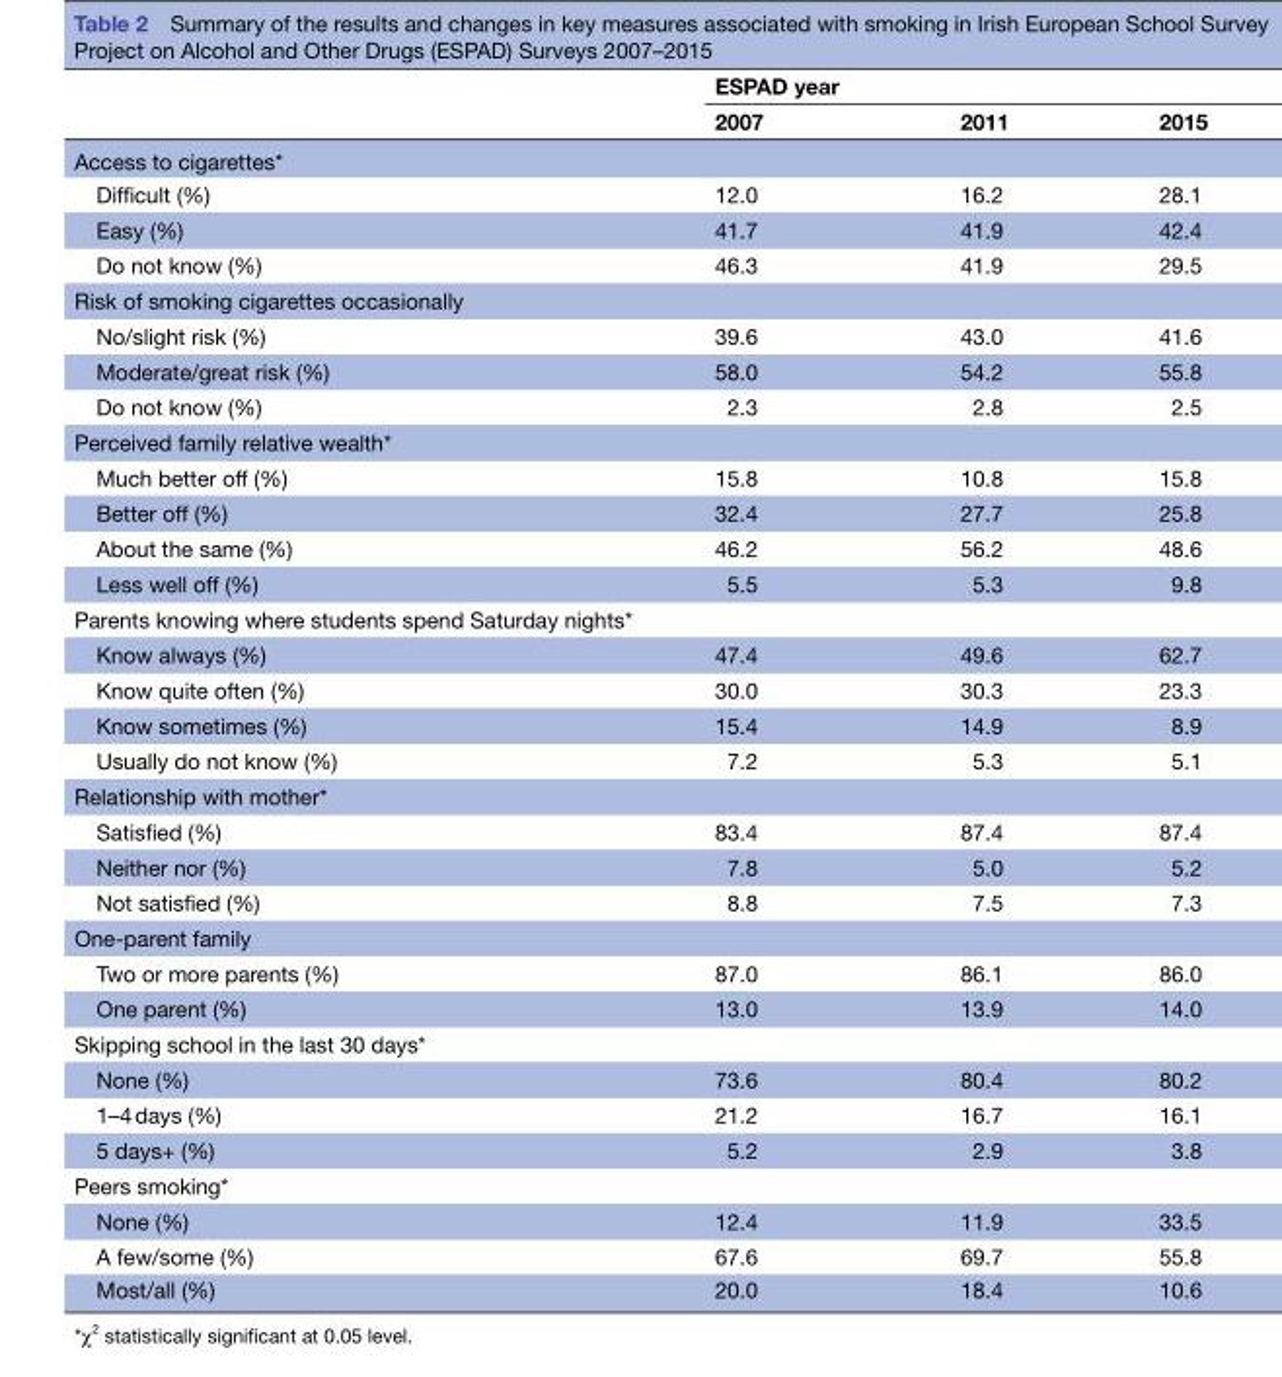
<table><thead><tr><td rowspan="2"></td><td colspan="3">ESPAD year</td></tr><tr><td>2007</td><td>2011</td><td>2015</td></tr></thead><tbody><tr><td colspan="4">Access to cigarettes*</td></tr><tr><td>Difficult (%)</td><td>12.0</td><td>16.2</td><td>28.1</td></tr><tr><td>Easy (%)</td><td>41.7</td><td>41.9</td><td>42.4</td></tr><tr><td>Do not know (%)</td><td>46.3</td><td>41.9</td><td>29.5</td></tr><tr><td colspan="4">Risk of smoking cigarettes occasionally</td></tr><tr><td>No/slight risk (%)</td><td>39.6</td><td>43.0</td><td>41.6</td></tr><tr><td>Moderate/great risk (%)</td><td>58.0</td><td>54.2</td><td>55.8</td></tr><tr><td>Do not know (%)</td><td>2.3</td><td>2.8</td><td>2.5</td></tr><tr><td colspan="4">Perceived family relative wealth*</td></tr><tr><td>Much better off (%)</td><td>15.8</td><td>10.8</td><td>15.8</td></tr><tr><td>Better off (%)</td><td>32.4</td><td>27.7</td><td>25.8</td></tr><tr><td>About the same (%)</td><td>46.2</td><td>56.2</td><td>48.6</td></tr><tr><td>Less well off (%)</td><td>5.5</td><td>5.3</td><td>9.8</td></tr><tr><td colspan="4">Parents knowing where students spend Saturday nights*</td></tr><tr><td>Know always (%)</td><td>47.4</td><td>49.6</td><td>62.7</td></tr><tr><td>Know quite often (%)</td><td>30.0</td><td>30.3</td><td>23.3</td></tr><tr><td>Know sometimes (%)</td><td>15.4</td><td>14.9</td><td>8.9</td></tr><tr><td>Usually do not know (%)</td><td>7.2</td><td>5.3</td><td>5.1</td></tr><tr><td colspan="4">Relationship with mother*</td></tr><tr><td>Satisfied (%)</td><td>83.4</td><td>87.4</td><td>87.4</td></tr><tr><td>Neither nor (%)</td><td>7.8</td><td>5.0</td><td>5.2</td></tr><tr><td>Not satisfied (%)</td><td>8.8</td><td>7.5</td><td>7.3</td></tr><tr><td colspan="4">One-parent family</td></tr><tr><td>Two or more parents (%)</td><td>87.0</td><td>86.1</td><td>86.0</td></tr><tr><td>One parent (%)</td><td>13.0</td><td>13.9</td><td>14.0</td></tr><tr><td colspan="4">Skipping school in the last 30 days*</td></tr><tr><td>None (%)</td><td>73.6</td><td>80.4</td><td>80.2</td></tr><tr><td>1–4 days (%)</td><td>21.2</td><td>16.7</td><td>16.1</td></tr><tr><td>5 days+ (%)</td><td>5.2</td><td>2.9</td><td>3.8</td></tr><tr><td colspan="4">Peers smoking*</td></tr><tr><td>None (%)</td><td>12.4</td><td>11.9</td><td>33.5</td></tr><tr><td>A few/some (%)</td><td>67.6</td><td>69.7</td><td>55.8</td></tr><tr><td>Most/all (%)</td><td>20.0</td><td>18.4</td><td>10.6</td></tr></tbody></table>